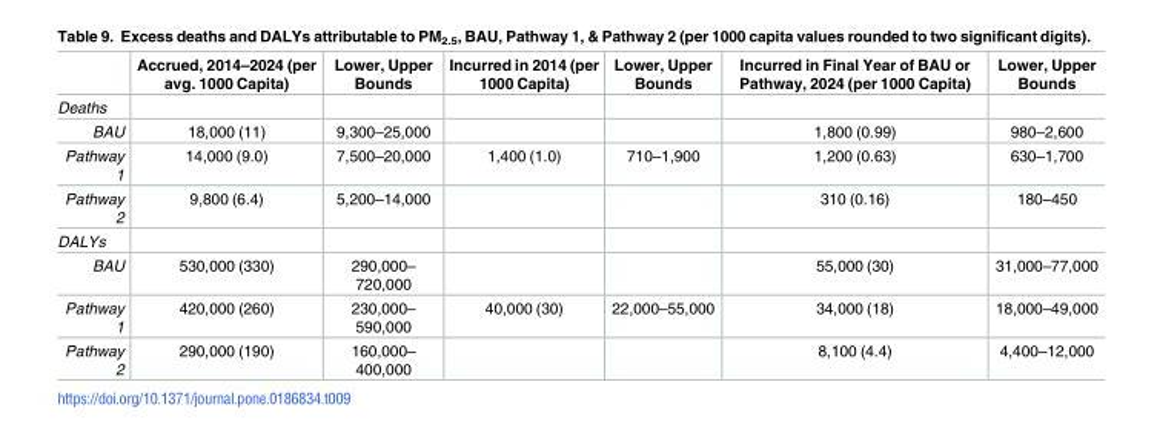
<table><thead><tr><td></td><td>Accrued, 2014–2024 (per avg. 1000 Capita)</td><td>Lower, Upper Bounds</td><td>Incurred in 2014 (per 1000 Capita)</td><td>Lower, Upper Bounds</td><td>Incurred in Final Year of BAU or Pathway, 2024 (per 1000 Capita)</td><td>Lower, Upper Bounds</td></tr></thead><tbody><tr><td colspan="7">Deaths</td></tr><tr><td>BAU</td><td>18,000 (11)</td><td>9,300–25,000</td><td></td><td></td><td>1,800 (0.99)</td><td>980–2,600</td></tr><tr><td>Pathway 1</td><td>14,000 (9.0)</td><td>7,500–20,000</td><td>1,400 (1.0)</td><td>710–1,900</td><td>1,200 (0.63)</td><td>630–1,700</td></tr><tr><td>Pathway 2</td><td>9,800 (6.4)</td><td>5,200–14,000</td><td></td><td></td><td>310 (0.16)</td><td>180–450</td></tr><tr><td colspan="7">DALYs</td></tr><tr><td>BAU</td><td>530,000 (330)</td><td>290,000– 720,000</td><td></td><td></td><td>55,000 (30)</td><td>31,000–77,000</td></tr><tr><td>Pathway 1</td><td>420,000 (260)</td><td>230,000– 590,000</td><td>40,000 (30)</td><td>22,000–55,000</td><td>34,000 (18)</td><td>18,000–49,000</td></tr><tr><td>Pathway 2</td><td>290,000 (190)</td><td>160,000– 400,000</td><td></td><td></td><td>8,100 (4.4)</td><td>4,400–12,000</td></tr></tbody></table>